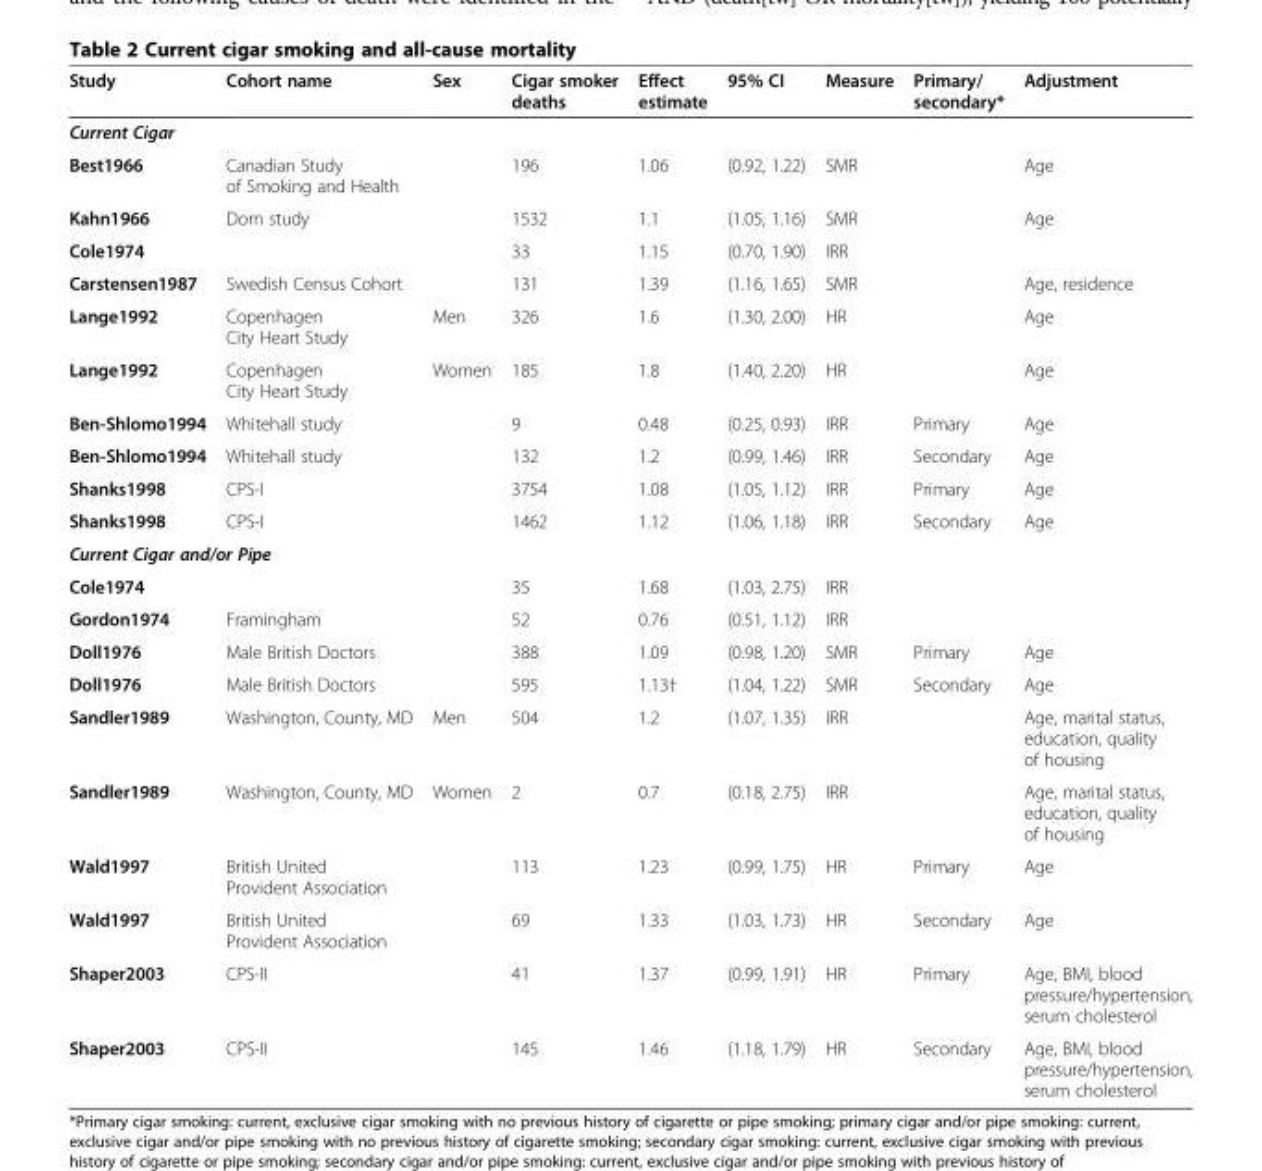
<table><thead><tr><td>Study</td><td>Cohort name</td><td>Sex</td><td>Cigar smoker deaths</td><td>Effect estimate</td><td>95% CI</td><td>Measure</td><td>Primary/ secondary*</td><td>Adjustment</td></tr></thead><tbody><tr><td colspan="9">Current Cigar</td></tr><tr><td>Best1966</td><td>Canadian Study of Smoking and Health</td><td></td><td>196</td><td>1.06</td><td>(0.92, 1.22)</td><td>SMR</td><td></td><td>Age</td></tr><tr><td>Kahn1966</td><td>Dorn study</td><td></td><td>1532</td><td>1.1</td><td>(1.05, 1.16)</td><td>SMR</td><td></td><td>Age</td></tr><tr><td>Cole1974</td><td></td><td></td><td>33</td><td>1.15</td><td>(0.70, 1.90)</td><td>IRR</td><td></td><td></td></tr><tr><td>Carstensen1987</td><td>Swedish Census Cohort</td><td></td><td>131</td><td>1.39</td><td>(1.16, 1.65)</td><td>SMR</td><td></td><td>Age, residence</td></tr><tr><td>Lange1992</td><td>Copenhagen City Heart Study</td><td>Men</td><td>326</td><td>1.6</td><td>(1.30, 2.00)</td><td>HR</td><td></td><td>Age</td></tr><tr><td>Lange1992</td><td>Copenhagen City Heart Study</td><td>Women</td><td>185</td><td>1.8</td><td>(1.40, 2.20)</td><td>HR</td><td></td><td>Age</td></tr><tr><td>Ben-Shlomo1994</td><td>Whitehall study</td><td></td><td>9</td><td>0.48</td><td>(0.25, 0.93)</td><td>IRR</td><td>Primary</td><td>Age</td></tr><tr><td>Ben-Shlomo1994</td><td>Whitehall study</td><td></td><td>132</td><td>1.2</td><td>(0.99, 1.46)</td><td>IRR</td><td>Secondary</td><td>Age</td></tr><tr><td>Shanks1998</td><td>CPS-I</td><td></td><td>3754</td><td>1.08</td><td>(1.05, 1.12)</td><td>IRR</td><td>Primary</td><td>Age</td></tr><tr><td>Shanks1998</td><td>CPS-I</td><td></td><td>1462</td><td>1.12</td><td>(1.06, 1.18)</td><td>IRR</td><td>Secondary</td><td>Age</td></tr><tr><td colspan="9">Current Cigar and/or Pipe</td></tr><tr><td>Cole1974</td><td></td><td></td><td>35</td><td>1.68</td><td>(1.03, 2.75)</td><td>IRR</td><td></td><td></td></tr><tr><td>Gordon1974</td><td>Framingham</td><td></td><td>52</td><td>0.76</td><td>(0.51, 1.12)</td><td>IRR</td><td></td><td></td></tr><tr><td>Doll1976</td><td>Male British Doctors</td><td></td><td>388</td><td>1.09</td><td>(0.98, 1.20)</td><td>SMR</td><td>Primary</td><td>Age</td></tr><tr><td>Doll1976</td><td>Male British Doctors</td><td></td><td>595</td><td>1.13†</td><td>(1.04, 1.22)</td><td>SMR</td><td>Secondary</td><td>Age</td></tr><tr><td>Sandler1989</td><td>Washington, County, MD</td><td>Men</td><td>504</td><td>1.2</td><td>(1.07, 1.35)</td><td>IRR</td><td></td><td>Age, marital status, education, quality of housing</td></tr><tr><td>Sandler1989</td><td>Washington, County, MD</td><td>Women</td><td>2</td><td>0.7</td><td>(0.18, 2.75)</td><td>IRR</td><td></td><td>Age, marital status, education, quality of housing</td></tr><tr><td>Wald1997</td><td>British United Provident Association</td><td></td><td>113</td><td>1.23</td><td>(0.99, 1.75)</td><td>HR</td><td>Primary</td><td>Age</td></tr><tr><td>Wald1997</td><td>British United Provident Association</td><td></td><td>69</td><td>1.33</td><td>(1.03, 1.73)</td><td>HR</td><td>Secondary</td><td>Age</td></tr><tr><td>Shaper2003</td><td>CPS-II</td><td></td><td>41</td><td>1.37</td><td>(0.99, 1.91)</td><td>HR</td><td>Primary</td><td>Age, BMI, blood pressure/hypertension, serum cholesterol</td></tr><tr><td>Shaper2003</td><td>CPS-II</td><td></td><td>145</td><td>1.46</td><td>(1.18, 1.79)</td><td>HR</td><td>Secondary</td><td>Age, BMI, blood pressure/hypertension, serum cholesterol</td></tr></tbody></table>